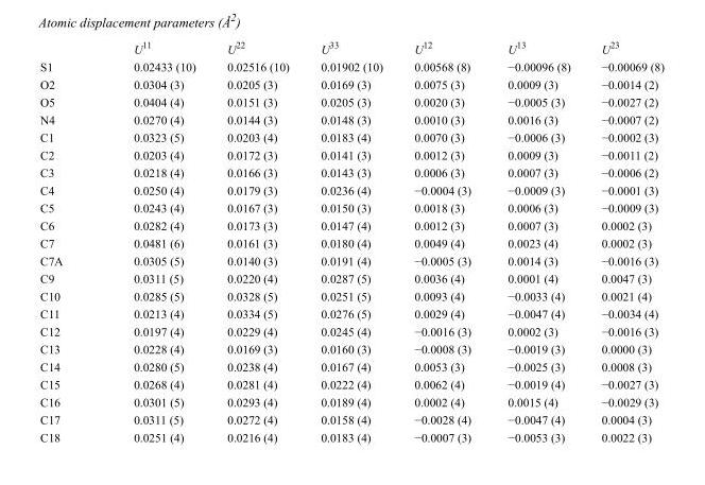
<table><thead><tr><td></td><td>U<sup>11</sup></td><td>U<sup>22</sup></td><td>U<sup>33</sup></td><td>U<sup>12</sup></td><td>U<sup>13</sup></td><td>U<sup>23</sup></td></tr></thead><tbody><tr><td>S1</td><td>0.02433 (10)</td><td>0.02516 (10)</td><td>0.01902 (10)</td><td>0.00568 (8)</td><td>−0.00096 (8)</td><td>−0.00069 (8)</td></tr><tr><td>O2</td><td>0.0304 (3)</td><td>0.0205 (3)</td><td>0.0169 (3)</td><td>0.0075 (3)</td><td>0.0009 (3)</td><td>−0.0014 (2)</td></tr><tr><td>O5</td><td>0.0404 (4)</td><td>0.0151 (3)</td><td>0.0205 (3)</td><td>0.0020 (3)</td><td>−0.0005 (3)</td><td>−0.0027 (2)</td></tr><tr><td>N4</td><td>0.0270 (4)</td><td>0.0144 (3)</td><td>0.0148 (3)</td><td>0.0010 (3)</td><td>0.0016 (3)</td><td>−0.0007 (2)</td></tr><tr><td>C1</td><td>0.0323 (5)</td><td>0.0203 (4)</td><td>0.0183 (4)</td><td>0.0070 (3)</td><td>−0.0006 (3)</td><td>−0.0002 (3)</td></tr><tr><td>C2</td><td>0.0203 (4)</td><td>0.0172 (3)</td><td>0.0141 (3)</td><td>0.0012 (3)</td><td>0.0009 (3)</td><td>−0.0011 (2)</td></tr><tr><td>C3</td><td>0.0218 (4)</td><td>0.0166 (3)</td><td>0.0143 (3)</td><td>0.0006 (3)</td><td>0.0007 (3)</td><td>−0.0006 (2)</td></tr><tr><td>C4</td><td>0.0250 (4)</td><td>0.0179 (3)</td><td>0.0236 (4)</td><td>−0.0004 (3)</td><td>−0.0009 (3)</td><td>−0.0001 (3)</td></tr><tr><td>C5</td><td>0.0243 (4)</td><td>0.0167 (3)</td><td>0.0150 (3)</td><td>0.0018 (3)</td><td>0.0006 (3)</td><td>−0.0009 (3)</td></tr><tr><td>C6</td><td>0.0282 (4)</td><td>0.0173 (3)</td><td>0.0147 (4)</td><td>0.0012 (3)</td><td>0.0007 (3)</td><td>0.0002 (3)</td></tr><tr><td>C7</td><td>0.0481 (6)</td><td>0.0161 (3)</td><td>0.0180 (4)</td><td>0.0049 (4)</td><td>0.0023 (4)</td><td>0.0002 (3)</td></tr><tr><td>C7A</td><td>0.0305 (5)</td><td>0.0140 (3)</td><td>0.0191 (4)</td><td>−0.0005 (3)</td><td>0.0014 (3)</td><td>−0.0016 (3)</td></tr><tr><td>C9</td><td>0.0311 (5)</td><td>0.0220 (4)</td><td>0.0287 (5)</td><td>0.0036 (4)</td><td>0.0001 (4)</td><td>0.0047 (3)</td></tr><tr><td>C10</td><td>0.0285 (5)</td><td>0.0328 (5)</td><td>0.0251 (5)</td><td>0.0093 (4)</td><td>−0.0033 (4)</td><td>0.0021 (4)</td></tr><tr><td>C11</td><td>0.0213 (4)</td><td>0.0334 (5)</td><td>0.0276 (5)</td><td>0.0029 (4)</td><td>−0.0047 (4)</td><td>−0.0034 (4)</td></tr><tr><td>C12</td><td>0.0197 (4)</td><td>0.0229 (4)</td><td>0.0245 (4)</td><td>−0.0016 (3)</td><td>0.0002 (3)</td><td>−0.0016 (3)</td></tr><tr><td>C13</td><td>0.0228 (4)</td><td>0.0169 (3)</td><td>0.0160 (3)</td><td>−0.0008 (3)</td><td>−0.0019 (3)</td><td>0.0000 (3)</td></tr><tr><td>C14</td><td>0.0280 (5)</td><td>0.0238 (4)</td><td>0.0167 (4)</td><td>0.0053 (3)</td><td>−0.0025 (3)</td><td>0.0008 (3)</td></tr><tr><td>C15</td><td>0.0268 (4)</td><td>0.0281 (4)</td><td>0.0222 (4)</td><td>0.0062 (4)</td><td>−0.0019 (4)</td><td>−0.0027 (3)</td></tr><tr><td>C16</td><td>0.0301 (5)</td><td>0.0293 (4)</td><td>0.0189 (4)</td><td>0.0002 (4)</td><td>0.0015 (4)</td><td>−0.0029 (3)</td></tr><tr><td>C17</td><td>0.0311 (5)</td><td>0.0272 (4)</td><td>0.0158 (4)</td><td>−0.0028 (4)</td><td>−0.0047 (4)</td><td>0.0004 (3)</td></tr><tr><td>C18</td><td>0.0251 (4)</td><td>0.0216 (4)</td><td>0.0183 (4)</td><td>−0.0007 (3)</td><td>−0.0053 (3)</td><td>0.0022 (3)</td></tr></tbody></table>